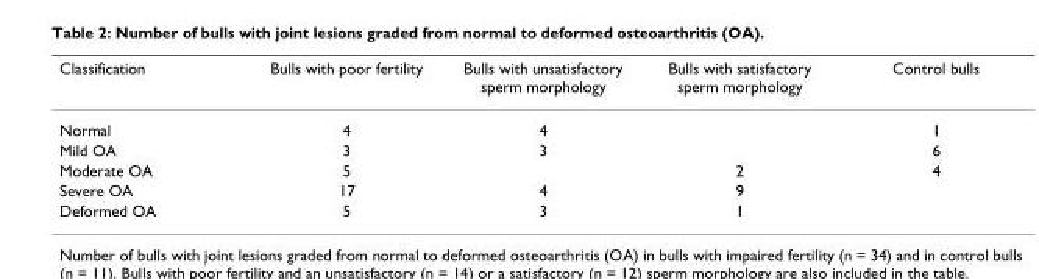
<table><thead><tr><td>Classification</td><td>Bulls with poor fertility</td><td>Bulls with unsatisfactory sperm morphology</td><td>Bulls with satisfactory sperm morphology</td><td>Control bulls</td></tr></thead><tbody><tr><td>Normal</td><td>4</td><td>4</td><td></td><td>1</td></tr><tr><td>Mild OA</td><td>3</td><td>3</td><td></td><td>6</td></tr><tr><td>Moderate OA</td><td>5</td><td></td><td>2</td><td>4</td></tr><tr><td>Severe OA</td><td>17</td><td>4</td><td>9</td><td></td></tr><tr><td>Deformed OA</td><td>5</td><td>3</td><td>1</td><td></td></tr></tbody></table>